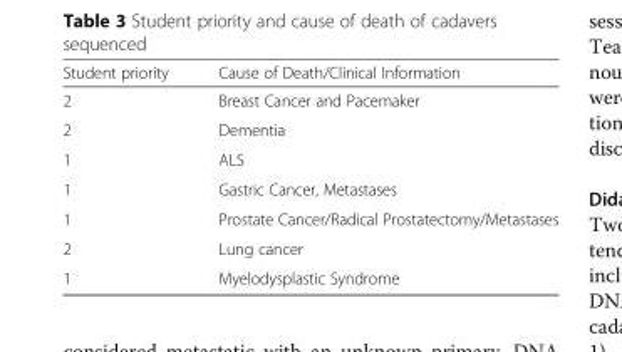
<table><thead><tr><td>Student priority</td><td>Cause of Death/Clinical Information</td></tr></thead><tbody><tr><td>2</td><td>Breast Cancer and Pacemaker</td></tr><tr><td>2</td><td>Dementia</td></tr><tr><td>1</td><td>ALS</td></tr><tr><td>1</td><td>Gastric Cancer, Metastases</td></tr><tr><td>1</td><td>Prostate Cancer/Radical Prostatectomy/Metastases</td></tr><tr><td>2</td><td>Lung cancer</td></tr><tr><td>1</td><td>Myelodysplastic Syndrome</td></tr></tbody></table>